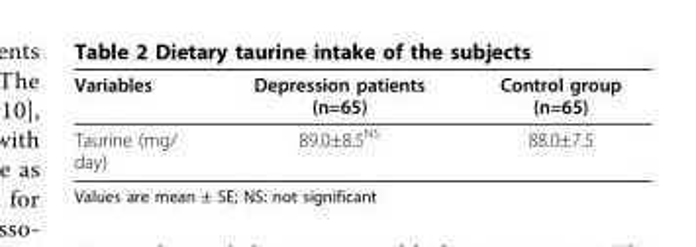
<table><thead><tr><td>Variables</td><td>Depression patients (n=65)</td><td>Control group (n=65)</td></tr></thead><tbody><tr><td>Taurine (mg/ day)</td><td>89.0±8.5<sup>NS</sup></td><td>88.0±7.5</td></tr></tbody></table>